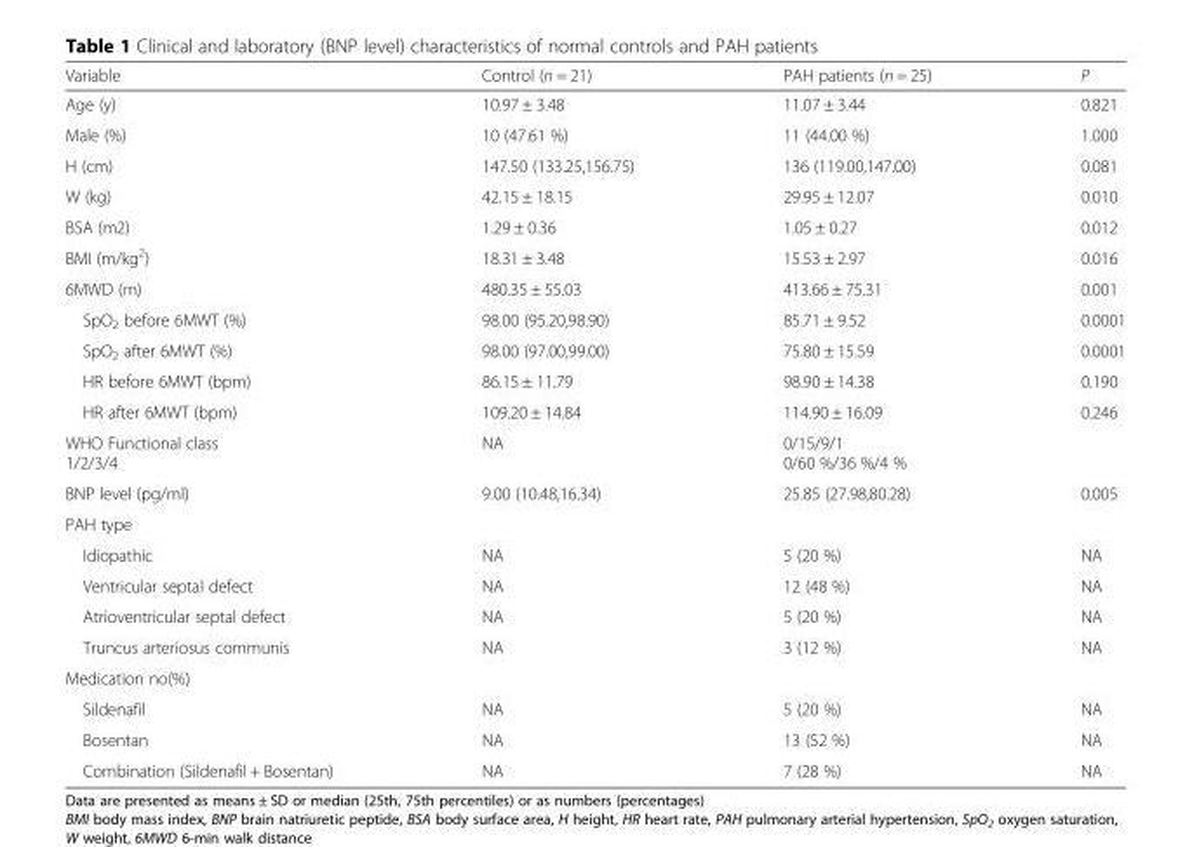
<table><thead><tr><td>Variable</td><td>Control (n = 21)</td><td>PAH patients (n = 25)</td><td>P</td></tr></thead><tbody><tr><td>Age (y)</td><td>10.97 ± 3.48</td><td>11.07 ± 3.44</td><td>0.821</td></tr><tr><td>Male (%)</td><td>10 (47.61 %)</td><td>11 (44.00 %)</td><td>1.000</td></tr><tr><td>H (cm)</td><td>147.50 (133.25,156.75)</td><td>136 (119.00,147.00)</td><td>0.081</td></tr><tr><td>W (kg)</td><td>42.15 ± 18.15</td><td>29.95 ± 12.07</td><td>0.010</td></tr><tr><td>BSA (m2)</td><td>1.29 ± 0.36</td><td>1.05 ± 0.27</td><td>0.012</td></tr><tr><td>BMI (m/kg<sup>2</sup>)</td><td>18.31 ± 3.48</td><td>15.53 ± 2.97</td><td>0.016</td></tr><tr><td>6MWD (m)</td><td>480.35 ± 55.03</td><td>413.66 ± 75.31</td><td>0.001</td></tr><tr><td>SpO<sub>2</sub> before 6MWT (%)</td><td>98.00 (95.20,98.90)</td><td>85.71 ± 9.52</td><td>0.0001</td></tr><tr><td>SpO<sub>2</sub> after 6MWT (%)</td><td>98.00 (97.00,99.00)</td><td>75.80 ± 15.59</td><td>0.0001</td></tr><tr><td>HR before 6MWT (bpm)</td><td>86.15 ± 11.79</td><td>98.90 ± 14.38</td><td>0.190</td></tr><tr><td>HR after 6MWT (bpm)</td><td>109.20 ± 14.84</td><td>114.90 ± 16.09</td><td>0.246</td></tr><tr><td>WHO Functional class 1/2/3/4</td><td>NA</td><td>0/15/9/1 0/60 %/36 %/4 %</td><td></td></tr><tr><td>BNP level (pg/ml)</td><td>9.00 (10.48,16.34)</td><td>25.85 (27.98,80.28)</td><td>0.005</td></tr><tr><td colspan="4">PAH type</td></tr><tr><td>Idiopathic</td><td>NA</td><td>5 (20 %)</td><td>NA</td></tr><tr><td>Ventricular septal defect</td><td>NA</td><td>12 (48 %)</td><td>NA</td></tr><tr><td>Atrioventricular septal defect</td><td>NA</td><td>5 (20 %)</td><td>NA</td></tr><tr><td>Truncus arteriosus communis</td><td>NA</td><td>3 (12 %)</td><td>NA</td></tr><tr><td colspan="4">Medication no(%)</td></tr><tr><td>Sildenafil</td><td>NA</td><td>5 (20 %)</td><td>NA</td></tr><tr><td>Bosentan</td><td>NA</td><td>13 (52 %)</td><td>NA</td></tr><tr><td>Combination (Sildenafil + Bosentan)</td><td>NA</td><td>7 (28 %)</td><td>NA</td></tr></tbody></table>